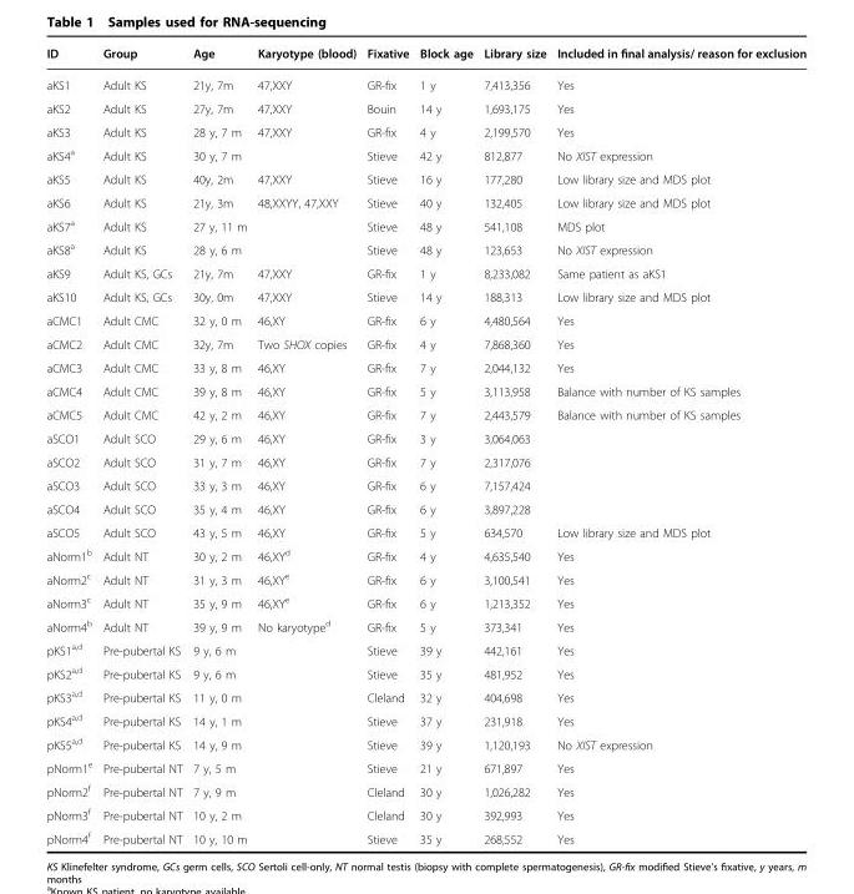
<table><thead><tr><td>ID</td><td>Group</td><td>Age</td><td>Karyotype (blood)</td><td>Fixative</td><td>Block age</td><td>Library size</td><td>Included in final analysis/ reason for exclusion</td></tr></thead><tbody><tr><td>aKS1</td><td>Adult KS</td><td>21y, 7m</td><td>47,XXY</td><td>GR-fix</td><td>1 y</td><td>7,413,356</td><td>Yes</td></tr><tr><td>aKS2</td><td>Adult KS</td><td>27y, 7m</td><td>47,XXY</td><td>Bouin</td><td>14 y</td><td>1,693,175</td><td>Yes</td></tr><tr><td>aKS3</td><td>Adult KS</td><td>28 y, 7 m</td><td>47,XXY</td><td>GR-fix</td><td>4 y</td><td>2,199,570</td><td>Yes</td></tr><tr><td>aKS4<sup>a</sup></td><td>Adult KS</td><td>30 y, 7 m</td><td></td><td>Stieve</td><td>42 y</td><td>812,877</td><td>No XIST expression</td></tr><tr><td>aKS5</td><td>Adult KS</td><td>40y, 2m</td><td>47,XXY</td><td>Stieve</td><td>16 y</td><td>177,280</td><td>Low library size and MDS plot</td></tr><tr><td>aKS6</td><td>Adult KS</td><td>21y, 3m</td><td>48,XXYY, 47,XXY</td><td>Stieve</td><td>40 y</td><td>132,405</td><td>Low library size and MDS plot</td></tr><tr><td>aKS7<sup>a</sup></td><td>Adult KS</td><td>27 y, 11 m</td><td></td><td>Stieve</td><td>48 y</td><td>541,108</td><td>MDS plot</td></tr><tr><td>aKS8<sup>a</sup></td><td>Adult KS</td><td>28 y, 6 m</td><td></td><td>Stieve</td><td>48 y</td><td>123,653</td><td>No XIST expression</td></tr><tr><td>aKS9</td><td>Adult KS, GCs</td><td>21y, 7m</td><td>47,XXY</td><td>GR-fix</td><td>1 y</td><td>8,233,082</td><td>Same patient as aKS1</td></tr><tr><td>aKS10</td><td>Adult KS, GCs</td><td>30y, 0m</td><td>47,XXY</td><td>Stieve</td><td>14 y</td><td>188,313</td><td>Low library size and MDS plot</td></tr><tr><td>aCMC1</td><td>Adult CMC</td><td>32 y, 0 m</td><td>46,XY</td><td>GR-fix</td><td>6 y</td><td>4,480,564</td><td>Yes</td></tr><tr><td>aCMC2</td><td>Adult CMC</td><td>32y, 7m</td><td>Two SHOX copies</td><td>GR-fix</td><td>4 y</td><td>7,868,360</td><td>Yes</td></tr><tr><td>aCMC3</td><td>Adult CMC</td><td>33 y, 8 m</td><td>46,XY</td><td>GR-fix</td><td>7 y</td><td>2,044,132</td><td>Yes</td></tr><tr><td>aCMC4</td><td>Adult CMC</td><td>39 y, 8 m</td><td>46,XY</td><td>GR-fix</td><td>5 y</td><td>3,113,958</td><td>Balance with number of KS samples</td></tr><tr><td>aCMC5</td><td>Adult CMC</td><td>42 y, 2 m</td><td>46,XY</td><td>GR-fix</td><td>7 y</td><td>2,443,579</td><td>Balance with number of KS samples</td></tr><tr><td>aSCO1</td><td>Adult SCO</td><td>29 y, 6 m</td><td>46,XY</td><td>GR-fix</td><td>3 y</td><td>3,064,063</td><td></td></tr><tr><td>aSCO2</td><td>Adult SCO</td><td>31 y, 7 m</td><td>46,XY</td><td>GR-fix</td><td>7 y</td><td>2,317,076</td><td></td></tr><tr><td>aSCO3</td><td>Adult SCO</td><td>33 y, 3 m</td><td>46,XY</td><td>GR-fix</td><td>6 y</td><td>7,157,424</td><td></td></tr><tr><td>aSCO4</td><td>Adult SCO</td><td>35 y, 4 m</td><td>46,XY</td><td>GR-fix</td><td>6 y</td><td>3,897,228</td><td></td></tr><tr><td>aSCO5</td><td>Adult SCO</td><td>43 y, 5 m</td><td>46,XY</td><td>GR-fix</td><td>5 y</td><td>634,570</td><td>Low library size and MDS plot</td></tr><tr><td>aNorm1<sup>b</sup></td><td>Adult NT</td><td>30 y, 2 m</td><td>46,XY<sup>d</sup></td><td>GR-fix</td><td>4 y</td><td>4,635,540</td><td>Yes</td></tr><tr><td>aNorm2<sup>c</sup></td><td>Adult NT</td><td>31 y, 3 m</td><td>46,XY<sup>e</sup></td><td>GR-fix</td><td>6 y</td><td>3,100,541</td><td>Yes</td></tr><tr><td>aNorm3<sup>c</sup></td><td>Adult NT</td><td>35 y, 9 m</td><td>46,XY<sup>e</sup></td><td>GR-fix</td><td>6 y</td><td>1,213,352</td><td>Yes</td></tr><tr><td>aNorm4<sup>b</sup></td><td>Adult NT</td><td>39 y, 9 m</td><td>No karyotype<sup>d</sup></td><td>GR-fix</td><td>5 y</td><td>373,341</td><td>Yes</td></tr><tr><td>pKS1<sup>a,d</sup></td><td>Pre-pubertal KS</td><td>9 y, 6 m</td><td></td><td>Stieve</td><td>39 y</td><td>442,161</td><td>Yes</td></tr><tr><td>pKS2<sup>a,d</sup></td><td>Pre-pubertal KS</td><td>9 y, 6 m</td><td></td><td>Stieve</td><td>35 y</td><td>481,952</td><td>Yes</td></tr><tr><td>pKS3<sup>a,d</sup></td><td>Pre-pubertal KS</td><td>11 y, 0 m</td><td></td><td>Cleland</td><td>32 y</td><td>404,698</td><td>Yes</td></tr><tr><td>pKS4<sup>a,d</sup></td><td>Pre-pubertal KS</td><td>14 y, 1 m</td><td></td><td>Stieve</td><td>37 y</td><td>231,918</td><td>Yes</td></tr><tr><td>pKS5<sup>a,d</sup></td><td>Pre-pubertal KS</td><td>14 y, 9 m</td><td></td><td>Stieve</td><td>39 y</td><td>1,120,193</td><td>No XIST expression</td></tr><tr><td>pNorm1<sup>e</sup></td><td>Pre-pubertal NT</td><td>7 y, 5 m</td><td></td><td>Stieve</td><td>21 y</td><td>671,897</td><td>Yes</td></tr><tr><td>pNorm2<sup>f</sup></td><td>Pre-pubertal NT</td><td>7 y, 9 m</td><td></td><td>Cleland</td><td>30 y</td><td>1,026,282</td><td>Yes</td></tr><tr><td>pNorm3<sup>f</sup></td><td>Pre-pubertal NT</td><td>10 y, 2 m</td><td></td><td>Cleland</td><td>30 y</td><td>392,993</td><td>Yes</td></tr><tr><td>pNorm4<sup>f</sup></td><td>Pre-pubertal NT</td><td>10 y, 10 m</td><td></td><td>Stieve</td><td>35 y</td><td>268,552</td><td>Yes</td></tr></tbody></table>